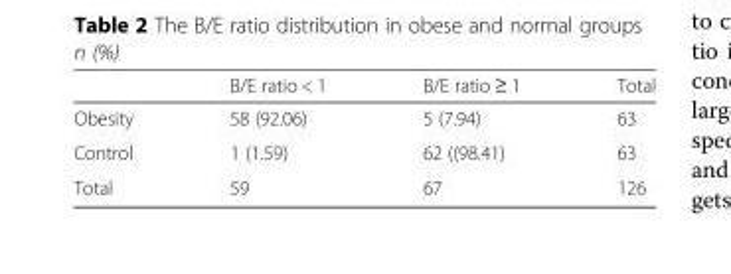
<table><thead><tr><td></td><td>B/E ratio &lt; 1</td><td>B/E ratio ≥ 1</td><td>Total</td></tr></thead><tbody><tr><td>Obesity</td><td>58 (92.06)</td><td>5 (7.94)</td><td>63</td></tr><tr><td>Control</td><td>1 (1.59)</td><td>62 ((98.41)</td><td>63</td></tr><tr><td>Total</td><td>59</td><td>67</td><td>126</td></tr></tbody></table>